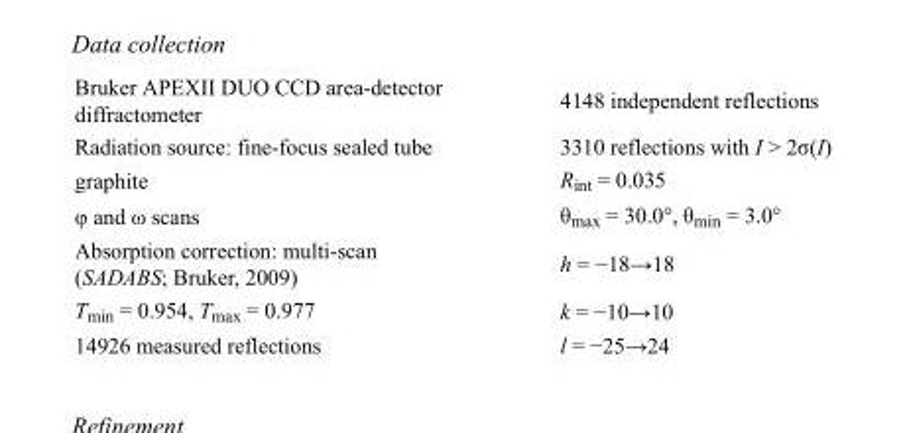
<table><tbody><tr><td>Bruker APEXII DUO CCD area-detector diffractometer</td><td>4148 independent reflections</td></tr><tr><td>Radiation source: fine-focus sealed tube</td><td>3310 reflections with I &gt; 2σ(I)</td></tr><tr><td>graphite</td><td>R<sub>int</sub> = 0.035</td></tr><tr><td>φ and ω scans</td><td>θ<sub>max</sub> = 30.0°, θ<sub>min</sub> = 3.0°</td></tr><tr><td>Absorption correction: multi-scan (SADABS; Bruker, 2009)</td><td>h = −18→18</td></tr><tr><td>T<sub>min</sub> = 0.954, T<sub>max</sub> = 0.977</td><td>k = −10→10</td></tr><tr><td>14926 measured reflections</td><td>l = −25→24</td></tr></tbody></table>